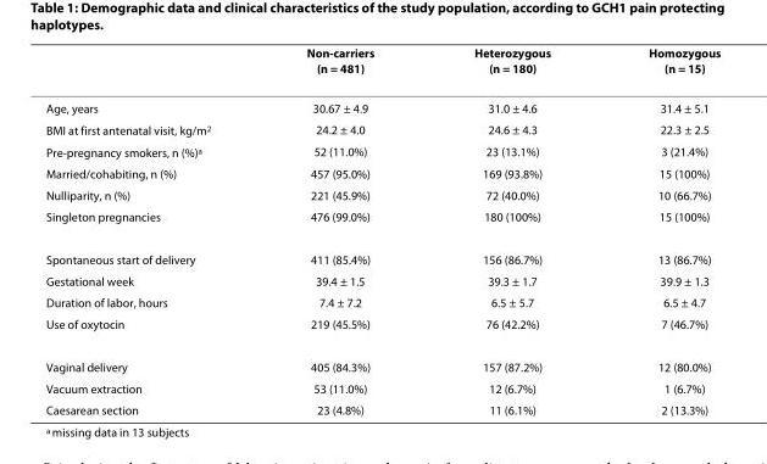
<table><thead><tr><td></td><td>Non-carriers (n = 481)</td><td>Heterozygous (n = 180)</td><td>Homozygous (n = 15)</td></tr></thead><tbody><tr><td>Age, years</td><td>30.67 ± 4.9</td><td>31.0 ± 4.6</td><td>31.4 ± 5.1</td></tr><tr><td>BMI at first antenatal visit, kg/m<sup>2</sup></td><td>24.2 ± 4.0</td><td>24.6 ± 4.3</td><td>22.3 ± 2.5</td></tr><tr><td>Pre-pregnancy smokers, n (%)<sup>a</sup></td><td>52 (11.0%)</td><td>23 (13.1%)</td><td>3 (21.4%)</td></tr><tr><td>Married/cohabiting, n (%)</td><td>457 (95.0%)</td><td>169 (93.8%)</td><td>15 (100%)</td></tr><tr><td>Nulliparity, n (%)</td><td>221 (45.9%)</td><td>72 (40.0%)</td><td>10 (66.7%)</td></tr><tr><td>Singleton pregnancies</td><td>476 (99.0%)</td><td>180 (100%)</td><td>15 (100%)</td></tr><tr><td>Spontaneous start of delivery</td><td>411 (85.4%)</td><td>156 (86.7%)</td><td>13 (86.7%)</td></tr><tr><td>Gestational week</td><td>39.4 ± 1.5</td><td>39.3 ± 1.7</td><td>39.9 ± 1.3</td></tr><tr><td>Duration of labor, hours</td><td>7.4 ± 7.2</td><td>6.5 ± 5.7</td><td>6.5 ± 4.7</td></tr><tr><td>Use of oxytocin</td><td>219 (45.5%)</td><td>76 (42.2%)</td><td>7 (46.7%)</td></tr><tr><td>Vaginal delivery</td><td>405 (84.3%)</td><td>157 (87.2%)</td><td>12 (80.0%)</td></tr><tr><td>Vacuum extraction</td><td>53 (11.0%)</td><td>12 (6.7%)</td><td>1 (6.7%)</td></tr><tr><td>Caesarean section</td><td>23 (4.8%)</td><td>11 (6.1%)</td><td>2 (13.3%)</td></tr></tbody></table>